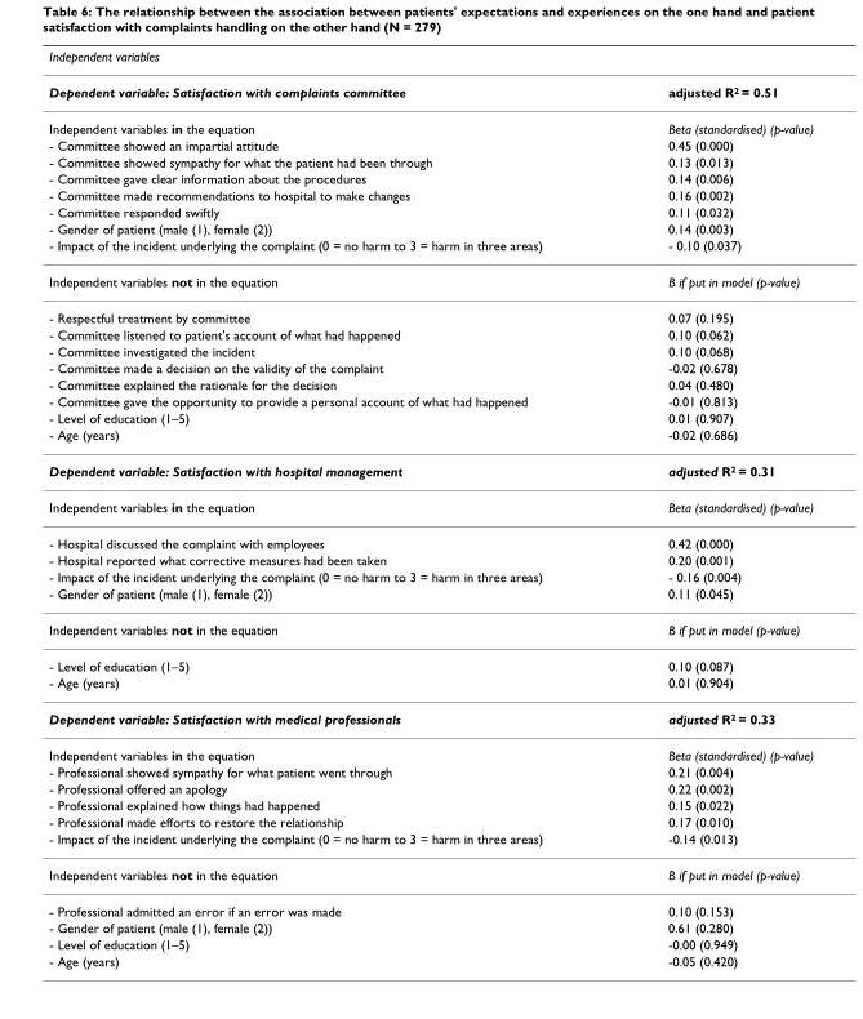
<table><thead><tr><td>Independent variables</td><td></td></tr></thead><tbody><tr><td>Dependent variable: Satisfaction with complaints committee</td><td>adjusted R<sup>2</sup> = 0.51</td></tr><tr><td>Independent variables in the equation</td><td>Beta (standardised) (p-value)</td></tr><tr><td>- Committee showed an impartial attitude</td><td>0.45 (0.000)</td></tr><tr><td>- Committee showed sympathy for what the patient had been through</td><td>0.13 (0.013)</td></tr><tr><td>- Committee gave clear information about the procedures</td><td>0.14 (0.006)</td></tr><tr><td>- Committee made recommendations to hospital to make changes</td><td>0.16 (0.002)</td></tr><tr><td>- Committee responded swiftly</td><td>0.11 (0.032)</td></tr><tr><td>- Gender of patient (male (1), female (2))</td><td>0.14 (0.003)</td></tr><tr><td>- Impact of the incident underlying the complaint (0 = no harm to 3 = harm in three areas)</td><td>- 0.10 (0.037)</td></tr><tr><td>Independent variables not in the equation</td><td>B if put in model (p-value)</td></tr><tr><td>- Respectful treatment by committee</td><td>0.07 (0.195)</td></tr><tr><td>- Committee listened to patient&#x27;s account of what had happened</td><td>0.10 (0.062)</td></tr><tr><td>- Committee investigated the incident</td><td>0.10 (0.068)</td></tr><tr><td>- Committee made a decision on the validity of the complaint</td><td>-0.02 (0.678)</td></tr><tr><td>- Committee explained the rationale for the decision</td><td>0.04 (0.480)</td></tr><tr><td>- Committee gave the opportunity to provide a personal account of what had happened</td><td>-0.01 (0.813)</td></tr><tr><td>- Level of education (1–5)</td><td>0.01 (0.907)</td></tr><tr><td>- Age (years)</td><td>-0.02 (0.686)</td></tr><tr><td>Dependent variable: Satisfaction with hospital management</td><td>adjusted R<sup>2</sup> = 0.31</td></tr><tr><td>Independent variables in the equation</td><td>Beta (standardised) (p-value)</td></tr><tr><td>- Hospital discussed the complaint with employees</td><td>0.42 (0.000)</td></tr><tr><td>- Hospital reported what corrective measures had been taken</td><td>0.20 (0.001)</td></tr><tr><td>- Impact of the incident underlying the complaint (0 = no harm to 3 = harm in three areas)</td><td>- 0.16 (0.004)</td></tr><tr><td>- Gender of patient (male (1), female (2))</td><td>0.11 (0.045)</td></tr><tr><td>Independent variables not in the equation</td><td>B if put in model (p-value)</td></tr><tr><td>- Level of education (1–5)</td><td>0.10 (0.087)</td></tr><tr><td>- Age (years)</td><td>0.01 (0.904)</td></tr><tr><td>Dependent variable: Satisfaction with medical professionals</td><td>adjusted R<sup>2</sup> = 0.33</td></tr><tr><td>Independent variables in the equation</td><td>Beta (standardised) (p-value)</td></tr><tr><td>- Professional showed sympathy for what patient went through</td><td>0.21 (0.004)</td></tr><tr><td>- Professional offered an apology</td><td>0.22 (0.002)</td></tr><tr><td>- Professional explained how things had happened</td><td>0.15 (0.022)</td></tr><tr><td>- Professional made efforts to restore the relationship</td><td>0.17 (0.010)</td></tr><tr><td>- Impact of the incident underlying the complaint (0 = no harm to 3 = harm in three areas)</td><td>-0.14 (0.013)</td></tr><tr><td>Independent variables not in the equation</td><td>B if put in model (p-value)</td></tr><tr><td>- Professional admitted an error if an error was made</td><td>0.10 (0.153)</td></tr><tr><td>- Gender of patient (male (1), female (2))</td><td>0.61 (0.280)</td></tr><tr><td>- Level of education (1–5)</td><td>-0.00 (0.949)</td></tr><tr><td>- Age (years)</td><td>-0.05 (0.420)</td></tr></tbody></table>